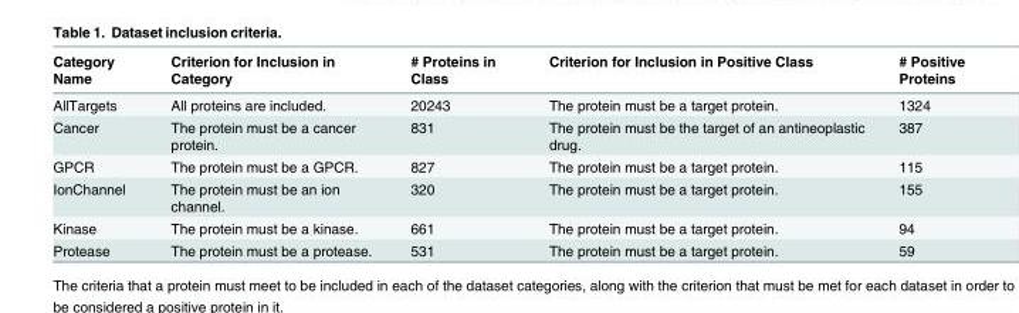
<table><thead><tr><td>Category Name</td><td>Criterion for Inclusion in Category</td><td># Proteins in Class</td><td>Criterion for Inclusion in Positive Class</td><td># Positive Proteins</td></tr></thead><tbody><tr><td>AllTargets</td><td>All proteins are included.</td><td>20243</td><td>The protein must be a target protein.</td><td>1324</td></tr><tr><td>Cancer</td><td>The protein must be a cancer protein.</td><td>831</td><td>The protein must be the target of an antineoplastic drug.</td><td>387</td></tr><tr><td>GPCR</td><td>The protein must be a GPCR.</td><td>827</td><td>The protein must be a target protein.</td><td>115</td></tr><tr><td>IonChannel</td><td>The protein must be an ion channel.</td><td>320</td><td>The protein must be a target protein.</td><td>155</td></tr><tr><td>Kinase</td><td>The protein must be a kinase.</td><td>661</td><td>The protein must be a target protein.</td><td>94</td></tr><tr><td>Protease</td><td>The protein must be a protease.</td><td>531</td><td>The protein must be a target protein.</td><td>59</td></tr></tbody></table>